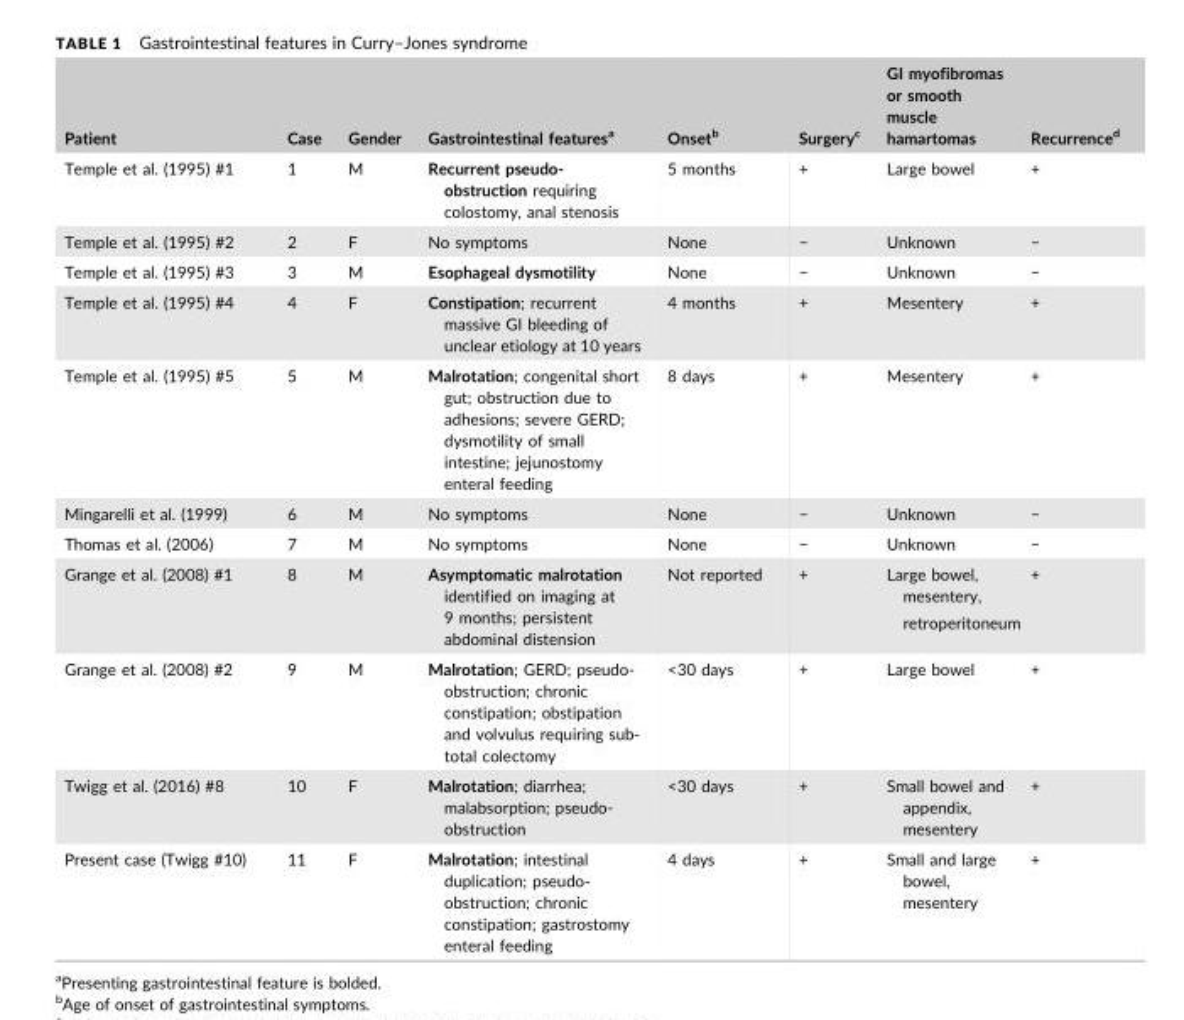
<table><thead><tr><td>Patient</td><td>Case</td><td>Gender</td><td>Gastrointestinal features<sup>a</sup></td><td>Onset<sup>b</sup></td><td>Surgery<sup>c</sup></td><td>GI myofibromas or smooth muscle hamartomas</td><td>Recurrence<sup>d</sup></td></tr></thead><tbody><tr><td>Temple et al. (1995) #1</td><td>1</td><td>M</td><td>Recurrent pseudo- obstruction requiring colostomy, anal stenosis</td><td>5 months</td><td>+</td><td>Large bowel</td><td>+</td></tr><tr><td>Temple et al. (1995) #2</td><td>2</td><td>F</td><td>No symptoms</td><td>None</td><td>−</td><td>Unknown</td><td>−</td></tr><tr><td>Temple et al. (1995) #3</td><td>3</td><td>M</td><td>Esophageal dysmotility</td><td>None</td><td>−</td><td>Unknown</td><td>−</td></tr><tr><td>Temple et al. (1995) #4</td><td>4</td><td>F</td><td>Constipation; recurrent massive GI bleeding of unclear etiology at 10 years</td><td>4 months</td><td>+</td><td>Mesentery</td><td>+</td></tr><tr><td>Temple et al. (1995) #5</td><td>5</td><td>M</td><td>Malrotation; congenital short gut; obstruction due to adhesions; severe GERD; dysmotility of small intestine; jejunostomy enteral feeding</td><td>8 days</td><td>+</td><td>Mesentery</td><td>+</td></tr><tr><td>Mingarelli et al. (1999)</td><td>6</td><td>M</td><td>No symptoms</td><td>None</td><td>−</td><td>Unknown</td><td>−</td></tr><tr><td>Thomas et al. (2006)</td><td>7</td><td>M</td><td>No symptoms</td><td>None</td><td>−</td><td>Unknown</td><td>−</td></tr><tr><td>Grange et al. (2008) #1</td><td>8</td><td>M</td><td>Asymptomatic malrotation identified on imaging at 9 months; persistent abdominal distension</td><td>Not reported</td><td>+</td><td>Large bowel, mesentery, retroperitoneum</td><td>+</td></tr><tr><td>Grange et al. (2008) #2</td><td>9</td><td>M</td><td>Malrotation; GERD; pseudo- obstruction; chronic constipation; obstipation and volvulus requiring sub- total colectomy</td><td>&lt;30 days</td><td>+</td><td>Large bowel</td><td>+</td></tr><tr><td>Twigg et al. (2016) #8</td><td>10</td><td>F</td><td>Malrotation; diarrhea; malabsorption; pseudo- obstruction</td><td>&lt;30 days</td><td>+</td><td>Small bowel and appendix, mesentery</td><td>+</td></tr><tr><td>Present case (Twigg #10)</td><td>11</td><td>F</td><td>Malrotation; intestinal duplication; pseudo- obstruction; chronic constipation; gastrostomy enteral feeding</td><td>4 days</td><td>+</td><td>Small and large bowel, mesentery</td><td>+</td></tr></tbody></table>